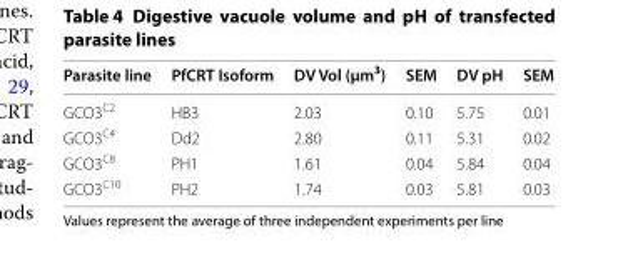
<table><thead><tr><td>Parasite line</td><td>PfCRT Isoform</td><td>DV Vol (µm<sup>3</sup>)</td><td>SEM</td><td>DV pH</td><td>SEM</td></tr></thead><tbody><tr><td>GCO3<sup>C2</sup></td><td>HB3</td><td>2.03</td><td>0.10</td><td>5.75</td><td>0.01</td></tr><tr><td>GCO3<sup>C4</sup></td><td>Dd2</td><td>2.80</td><td>0.11</td><td>5.31</td><td>0.02</td></tr><tr><td>GCO3<sup>C8</sup></td><td>PH1</td><td>1.61</td><td>0.04</td><td>5.84</td><td>0.04</td></tr><tr><td>GCO3<sup>C10</sup></td><td>PH2</td><td>1.74</td><td>0.03</td><td>5.81</td><td>0.03</td></tr></tbody></table>